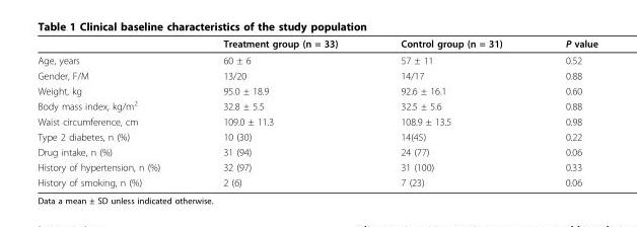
<table><thead><tr><td></td><td>Treatment group (n = 33)</td><td>Control group (n = 31)</td><td>P value</td></tr></thead><tbody><tr><td>Age, years</td><td>60 ± 6</td><td>57 ± 11</td><td>0.52</td></tr><tr><td>Gender, F/M</td><td>13/20</td><td>14/17</td><td>0.88</td></tr><tr><td>Weight, kg</td><td>95.0 ± 18.9</td><td>92.6 ± 16.1</td><td>0.60</td></tr><tr><td>Body mass index, kg/m<sup>2</sup></td><td>32.8 ± 5.5</td><td>32.5 ± 5.6</td><td>0.88</td></tr><tr><td>Waist circumference, cm</td><td>109.0 ± 11.3</td><td>108.9 ± 13.5</td><td>0.98</td></tr><tr><td>Type 2 diabetes, n (%)</td><td>10 (30)</td><td>14(45)</td><td>0.22</td></tr><tr><td>Drug intake, n (%)</td><td>31 (94)</td><td>24 (77)</td><td>0.06</td></tr><tr><td>History of hypertension, n (%)</td><td>32 (97)</td><td>31 (100)</td><td>0.33</td></tr><tr><td>History of smoking, n (%)</td><td>2 (6)</td><td>7 (23)</td><td>0.06</td></tr></tbody></table>